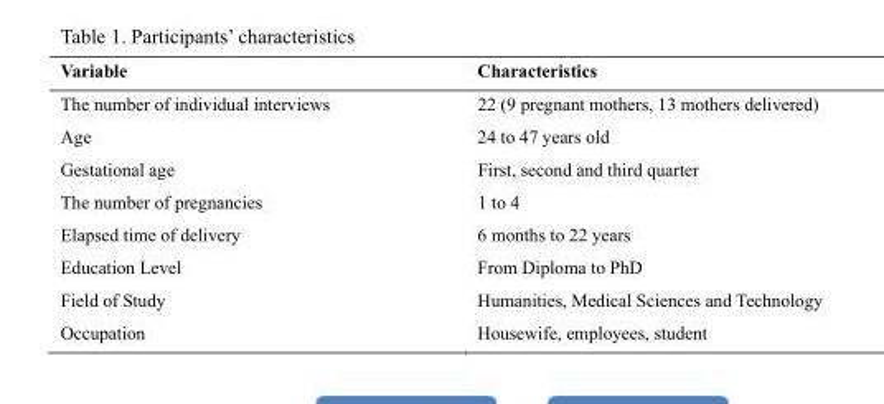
<table><thead><tr><td>Variable</td><td>Characteristics</td></tr></thead><tbody><tr><td>The number of individual interviews</td><td>22 (9 pregnant mothers, 13 mothers delivered)</td></tr><tr><td>Age</td><td>24 to 47 years old</td></tr><tr><td>Gestational age</td><td>First, second and third quarter</td></tr><tr><td>The number of pregnancies</td><td>1 to 4</td></tr><tr><td>Elapsed time of delivery</td><td>6 months to 22 years</td></tr><tr><td>Education Level</td><td>From Diploma to PhD</td></tr><tr><td>Field of Study</td><td>Humanities, Medical Sciences and Technology</td></tr><tr><td>Occupation</td><td>Housewife, employees, student</td></tr></tbody></table>